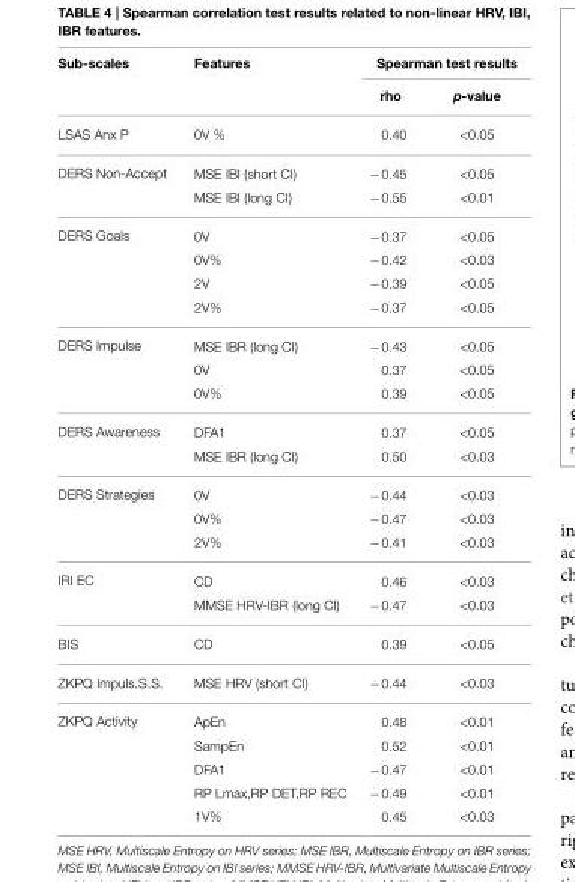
<table><thead><tr><td rowspan="2">Sub-scales</td><td rowspan="2">Features</td><td colspan="2">Spearman test results</td></tr><tr><td>rho</td><td>p-value</td></tr></thead><tbody><tr><td>LSAS Anx P</td><td>0V %</td><td>0.40</td><td>&lt;0.05</td></tr><tr><td rowspan="2">DERS Non-Accept</td><td>MSE IBI (short CI)</td><td>−0.45</td><td>&lt;0.05</td></tr><tr><td>MSE IBI (long CI)</td><td>−0.55</td><td>&lt;0.01</td></tr><tr><td rowspan="4">DERS Goals</td><td>0V</td><td>−0.37</td><td>&lt;0.05</td></tr><tr><td>0V%</td><td>−0.42</td><td>&lt;0.03</td></tr><tr><td>2V</td><td>−0.39</td><td>&lt;0.05</td></tr><tr><td>2V%</td><td>−0.37</td><td>&lt;0.05</td></tr><tr><td rowspan="3">DERS Impulse</td><td>MSE IBR (long CI)</td><td>−0.43</td><td>&lt;0.05</td></tr><tr><td>0V</td><td>0.37</td><td>&lt;0.05</td></tr><tr><td>0V%</td><td>0.39</td><td>&lt;0.05</td></tr><tr><td rowspan="2">DERS Awareness</td><td>DFA1</td><td>0.37</td><td>&lt;0.05</td></tr><tr><td>MSE IBR (long CI)</td><td>0.50</td><td>&lt;0.03</td></tr><tr><td rowspan="3">DERS Strategies</td><td>0V</td><td>−0.44</td><td>&lt;0.03</td></tr><tr><td>0V%</td><td>−0.47</td><td>&lt;0.03</td></tr><tr><td>2V%</td><td>−0.41</td><td>&lt;0.03</td></tr><tr><td rowspan="2">IRI EC</td><td>CD</td><td>0.46</td><td>&lt;0.03</td></tr><tr><td>MMSE HRV-IBR (long CI)</td><td>−0.47</td><td>&lt;0.03</td></tr><tr><td>BIS</td><td>CD</td><td>0.39</td><td>&lt;0.05</td></tr><tr><td>ZKPQ Impuls.S.S.</td><td>MSE HRV (short CI)</td><td>−0.44</td><td>&lt;0.03</td></tr><tr><td rowspan="5">ZKPQ Activity</td><td>ApEn</td><td>0.48</td><td>&lt;0.01</td></tr><tr><td>SampEn</td><td>0.52</td><td>&lt;0.01</td></tr><tr><td>DFA1</td><td>−0.47</td><td>&lt;0.01</td></tr><tr><td>RP Lmax,RP DET,RP REC</td><td>−0.49</td><td>&lt;0.01</td></tr><tr><td>1V%</td><td>0.45</td><td>&lt;0.03</td></tr></tbody></table>